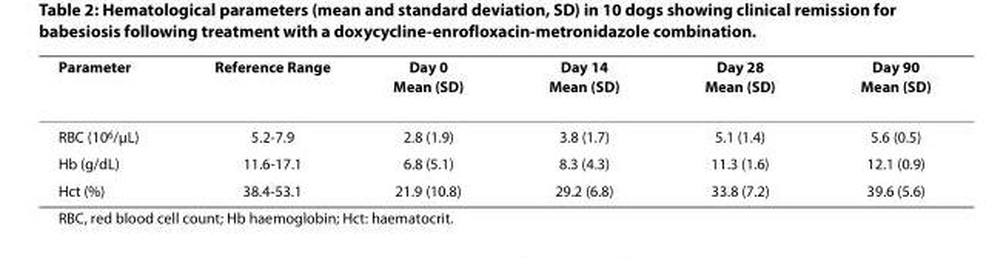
<table><thead><tr><td>Parameter</td><td>Reference Range</td><td>Day 0 Mean (SD)</td><td>Day 14 Mean (SD)</td><td>Day 28 Mean (SD)</td><td>Day 90 Mean (SD)</td></tr></thead><tbody><tr><td>RBC (10<sup>6</sup>/μL)</td><td>5.2-7.9</td><td>2.8 (1.9)</td><td>3.8 (1.7)</td><td>5.1 (1.4)</td><td>5.6 (0.5)</td></tr><tr><td>Hb (g/dL)</td><td>11.6-17.1</td><td>6.8 (5.1)</td><td>8.3 (4.3)</td><td>11.3 (1.6)</td><td>12.1 (0.9)</td></tr><tr><td>Hct (%)</td><td>38.4-53.1</td><td>21.9 (10.8)</td><td>29.2 (6.8)</td><td>33.8 (7.2)</td><td>39.6 (5.6)</td></tr></tbody></table>